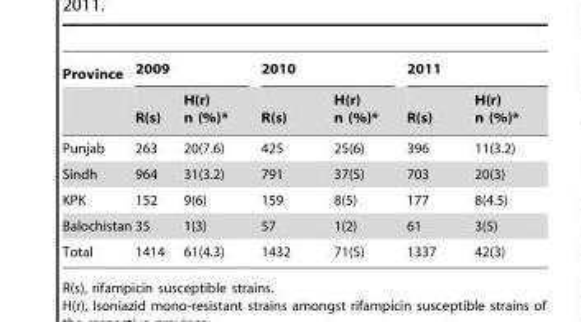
<table><thead><tr><td rowspan="2">Province</td><td colspan="2">2009</td><td colspan="2">2010</td><td colspan="2">2011</td></tr><tr><td>R(s)</td><td>H(r) n (%)*</td><td>R(s)</td><td>H(r) n (%)*</td><td>R(s)</td><td>H(r) n (%)*</td></tr></thead><tbody><tr><td>Punjab</td><td>263</td><td>20(7.6)</td><td>425</td><td>25(6)</td><td>396</td><td>11(3.2)</td></tr><tr><td>Sindh</td><td>964</td><td>31(3.2)</td><td>791</td><td>37(5)</td><td>703</td><td>20(3)</td></tr><tr><td>KPK</td><td>152</td><td>9(6)</td><td>159</td><td>8(5)</td><td>177</td><td>8(4.5)</td></tr><tr><td>Balochistan</td><td>35</td><td>1(3)</td><td>57</td><td>1(2)</td><td>61</td><td>3(5)</td></tr><tr><td>Total</td><td>1414</td><td>61(4.3)</td><td>1432</td><td>71(5)</td><td>1337</td><td>42(3)</td></tr></tbody></table>